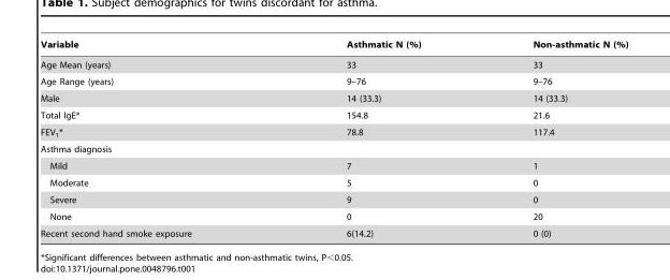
<table><thead><tr><td>Variable</td><td>Asthmatic N (%)</td><td>Non-asthmatic N (%)</td></tr></thead><tbody><tr><td>Age Mean (years)</td><td>33</td><td>33</td></tr><tr><td>Age Range (years)</td><td>9–76</td><td>9–76</td></tr><tr><td>Male</td><td>14 (33.3)</td><td>14 (33.3)</td></tr><tr><td>Total IgE*</td><td>154.8</td><td>21.6</td></tr><tr><td>FEV<sub>1</sub>*</td><td>78.8</td><td>117.4</td></tr><tr><td colspan="3">Asthma diagnosis</td></tr><tr><td>Mild</td><td>7</td><td>1</td></tr><tr><td>Moderate</td><td>5</td><td>0</td></tr><tr><td>Severe</td><td>9</td><td>0</td></tr><tr><td>None</td><td>0</td><td>20</td></tr><tr><td>Recent second hand smoke exposure</td><td>6(14.2)</td><td>0 (0)</td></tr></tbody></table>